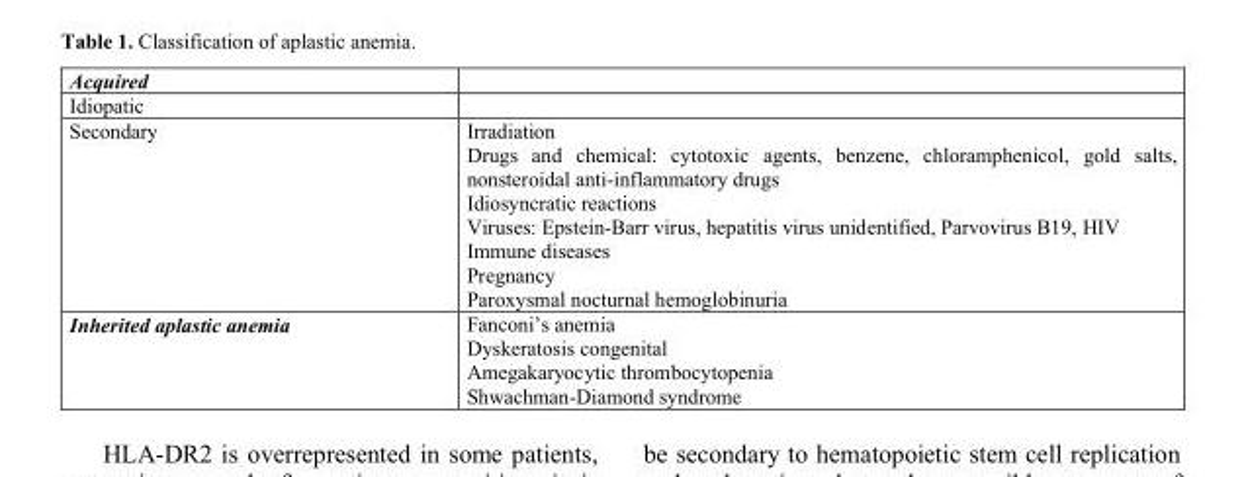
<table><tbody><tr><td colspan="2">Acquired</td></tr><tr><td colspan="2">Idiopatic</td></tr><tr><td>Secondary</td><td>Irradiation Drugs and chemical: cytotoxic agents, benzene, chloramphenicol, gold salts, nonsteroidal anti-inflammatory drugs Idiosyncratic reactions Viruses: Epstein-Barr virus, hepatitis virus unidentified, Parvovirus B19, HIV Immune diseases Pregnancy Paroxysmal nocturnal hemoglobinuria</td></tr><tr><td>Inherited aplastic anemia</td><td>Fanconi’s anemia Dyskeratosis congenital Amegakaryocytic thrombocytopenia Shwachman-Diamond syndrome</td></tr></tbody></table>